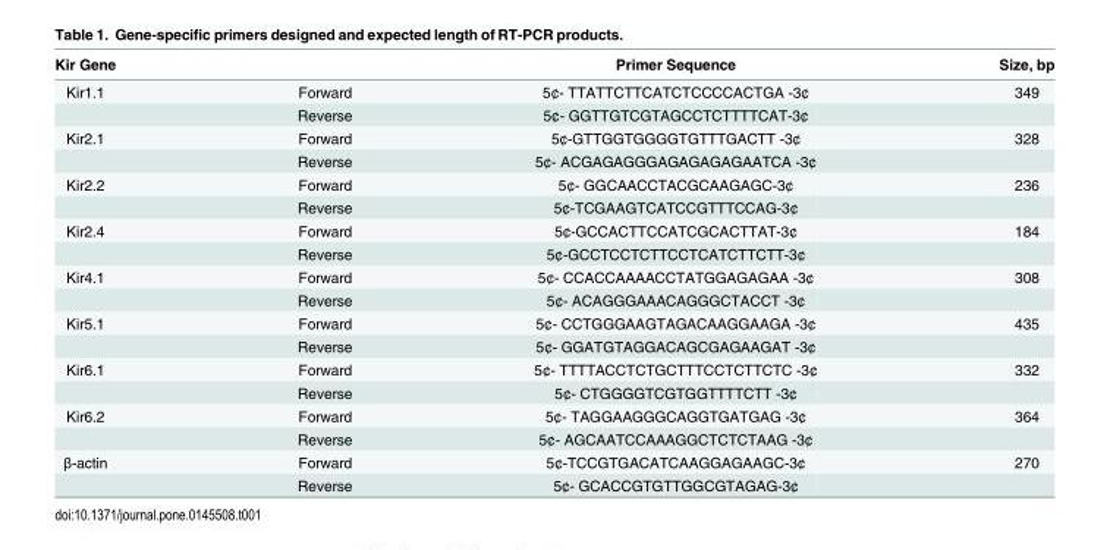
<table><thead><tr><td>Kir Gene</td><td></td><td>Primer Sequence</td><td>Size, bp</td></tr></thead><tbody><tr><td rowspan="2">Kir1.1</td><td>Forward</td><td>5¢- TTATTCTTCATCTCCCCACTGA -3¢</td><td>349</td></tr><tr><td>Reverse</td><td>5¢- GGTTGTCGTAGCCTCTTTTCAT-3¢</td><td></td></tr><tr><td rowspan="2">Kir2.1</td><td>Forward</td><td>5¢-GTTGGTGGGGTGTTTGACTT -3¢</td><td>328</td></tr><tr><td>Reverse</td><td>5¢- ACGAGAGGGAGAGAGAGAATCA -3¢</td><td></td></tr><tr><td rowspan="2">Kir2.2</td><td>Forward</td><td>5¢- GGCAACCTACGCAAGAGC-3¢</td><td>236</td></tr><tr><td>Reverse</td><td>5¢-TCGAAGTCATCCGTTTCCAG-3¢</td><td></td></tr><tr><td rowspan="2">Kir2.4</td><td>Forward</td><td>5¢-GCCACTTCCATCGCACTTAT-3¢</td><td>184</td></tr><tr><td>Reverse</td><td>5¢-GCCTCCTCTTCCTCATCTTCTT-3¢</td><td></td></tr><tr><td rowspan="2">Kir4.1</td><td>Forward</td><td>5¢- CCACCAAAACCTATGGAGAGAA -3¢</td><td>308</td></tr><tr><td>Reverse</td><td>5¢- ACAGGGAAACAGGGCTACCT -3¢</td><td></td></tr><tr><td rowspan="2">Kir5.1</td><td>Forward</td><td>5¢- CCTGGGAAGTAGACAAGGAAGA -3¢</td><td>435</td></tr><tr><td>Reverse</td><td>5¢- GGATGTAGGACAGCGAGAAGAT -3¢</td><td></td></tr><tr><td rowspan="2">Kir6.1</td><td>Forward</td><td>5¢- TTTTACCTCTGCTTTCCTCTTCTC -3¢</td><td>332</td></tr><tr><td>Reverse</td><td>5¢- CTGGGGTCGTGGTTTTCTT -3¢</td><td></td></tr><tr><td rowspan="2">Kir6.2</td><td>Forward</td><td>5¢- TAGGAAGGGCAGGTGATGAG -3¢</td><td>364</td></tr><tr><td>Reverse</td><td>5¢- AGCAATCCAAAGGCTCTCTAAG -3¢</td><td></td></tr><tr><td rowspan="2">β-actin</td><td>Forward</td><td>5¢-TCCGTGACATCAAGGAGAAGC-3¢</td><td>270</td></tr><tr><td>Reverse</td><td>5¢- GCACCGTGTTGGCGTAGAG-3¢</td><td></td></tr></tbody></table>